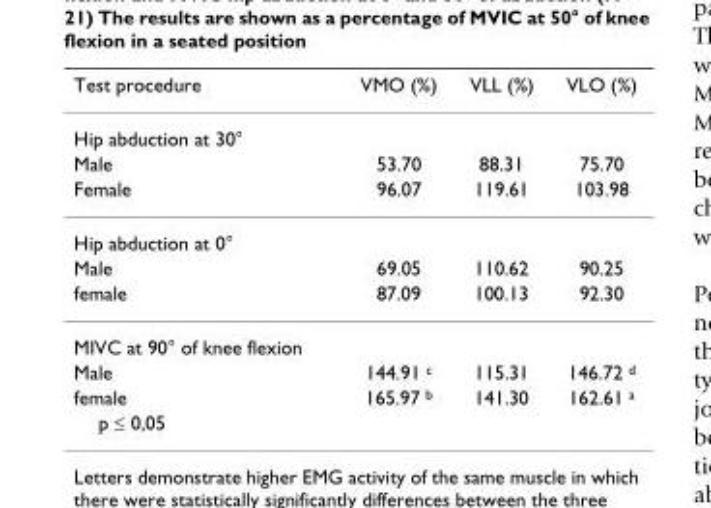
<table><thead><tr><td>Test procedure</td><td>VMO (%)</td><td>VLL (%)</td><td>VLO (%)</td></tr></thead><tbody><tr><td colspan="4">Hip abduction at 30°</td></tr><tr><td>Male</td><td>53.70</td><td>88.31</td><td>75.70</td></tr><tr><td>Female</td><td>96.07</td><td>119.61</td><td>103.98</td></tr><tr><td colspan="4">Hip abduction at 0°</td></tr><tr><td>Male</td><td>69.05</td><td>110.62</td><td>90.25</td></tr><tr><td>female</td><td>87.09</td><td>100.13</td><td>92.30</td></tr><tr><td colspan="4">MIVC at 90° of knee flexion</td></tr><tr><td>Male</td><td>144.91 <sup>c</sup></td><td>115.31</td><td>146.72 <sup>d</sup></td></tr><tr><td>female</td><td>165.97 <sup>b</sup></td><td>141.30</td><td>162.61 <sup>a</sup></td></tr><tr><td>p ≤ 0,05</td><td></td><td></td><td></td></tr></tbody></table>